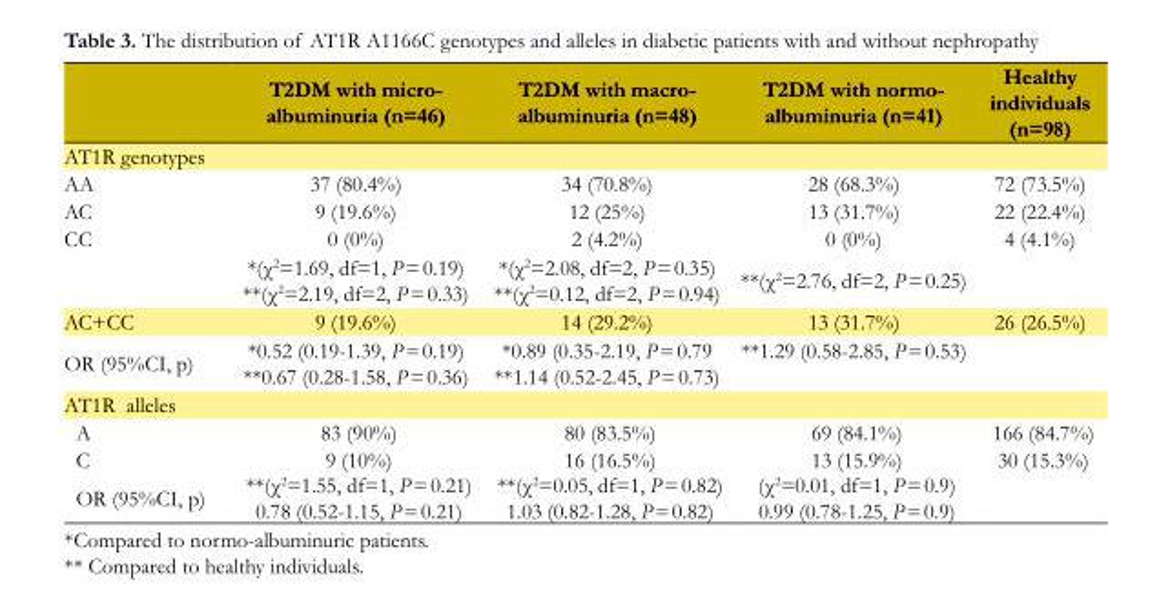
<table><thead><tr><td></td><td>T2DM with micro- albuminuria (n=46)</td><td>T2DM with macro- albuminuria (n=48)</td><td>T2DM with normo- albuminuria (n=41)</td><td>Healthy individuals (n=98)</td></tr></thead><tbody><tr><td colspan="5">AT1R genotypes</td></tr><tr><td>AA</td><td>37 (80.4%)</td><td>34 (70.8%)</td><td>28 (68.3%)</td><td>72 (73.5%)</td></tr><tr><td>AC</td><td>9 (19.6%)</td><td>12 (25%)</td><td>13 (31.7%)</td><td>22 (22.4%)</td></tr><tr><td rowspan="2">CC</td><td>0 (0%)</td><td>2 (4.2%)</td><td>0 (0%)</td><td>4 (4.1%)</td></tr><tr><td>*(χ<sup>2</sup>=1.69, df=1, P = 0.19) **(χ<sup>2</sup>=2.19, df=2, P = 0.33)</td><td>*(χ<sup>2</sup>=2.08, df=2, P = 0.35) **(χ<sup>2</sup>=0.12, df=2, P = 0.94)</td><td>**(χ<sup>2</sup>=2.76, df=2, P = 0.25)</td><td></td></tr><tr><td>AC+CC</td><td>9 (19.6%)</td><td>14 (29.2%)</td><td>13 (31.7%)</td><td>26 (26.5%)</td></tr><tr><td>OR (95%CI, p)</td><td>*0.52 (0.19-1.39, P = 0.19) **0.67 (0.28-1.58, P = 0.36)</td><td>*0.89 (0.35-2.19, P = 0.79 **1.14 (0.52-2.45, P = 0.73)</td><td>**1.29 (0.58-2.85, P = 0.53)</td><td></td></tr><tr><td colspan="5">AT1R alleles</td></tr><tr><td>A</td><td>83 (90%)</td><td>80 (83.5%)</td><td>69 (84.1%)</td><td>166 (84.7%)</td></tr><tr><td>C</td><td>9 (10%)</td><td>16 (16.5%)</td><td>13 (15.9%)</td><td>30 (15.3%)</td></tr><tr><td>OR (95%CI, p)</td><td>**(χ<sup>2</sup>=1.55, df=1, P = 0.21) 0.78 (0.52-1.15, P = 0.21)</td><td>**(χ<sup>2</sup>=0.05, df=1, P = 0.82) 1.03 (0.82-1.28, P = 0.82)</td><td>(χ<sup>2</sup>=0.01, df=1, P = 0.9) 0.99 (0.78-1.25, P = 0.9)</td><td></td></tr></tbody></table>